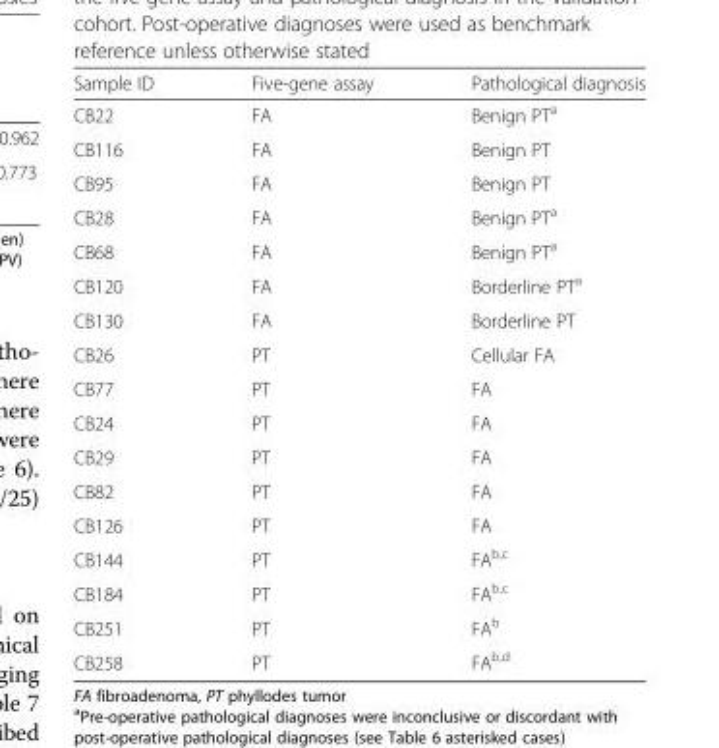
<table><thead><tr><td>Sample ID</td><td>Five-gene assay</td><td>Pathological diagnosis</td></tr></thead><tbody><tr><td>CB22</td><td>FA</td><td>Benign PT<sup>a</sup></td></tr><tr><td>CB116</td><td>FA</td><td>Benign PT</td></tr><tr><td>CB95</td><td>FA</td><td>Benign PT</td></tr><tr><td>CB28</td><td>FA</td><td>Benign PT<sup>a</sup></td></tr><tr><td>CB68</td><td>FA</td><td>Benign PT<sup>a</sup></td></tr><tr><td>CB120</td><td>FA</td><td>Borderline PT<sup>a</sup></td></tr><tr><td>CB130</td><td>FA</td><td>Borderline PT</td></tr><tr><td>CB26</td><td>PT</td><td>Cellular FA</td></tr><tr><td>CB77</td><td>PT</td><td>FA</td></tr><tr><td>CB24</td><td>PT</td><td>FA</td></tr><tr><td>CB29</td><td>PT</td><td>FA</td></tr><tr><td>CB82</td><td>PT</td><td>FA</td></tr><tr><td>CB126</td><td>PT</td><td>FA</td></tr><tr><td>CB144</td><td>PT</td><td>FA<sup>b,c</sup></td></tr><tr><td>CB184</td><td>PT</td><td>FA<sup>b,c</sup></td></tr><tr><td>CB251</td><td>PT</td><td>FA<sup>b</sup></td></tr><tr><td>CB258</td><td>PT</td><td>FA<sup>b,d</sup></td></tr></tbody></table>